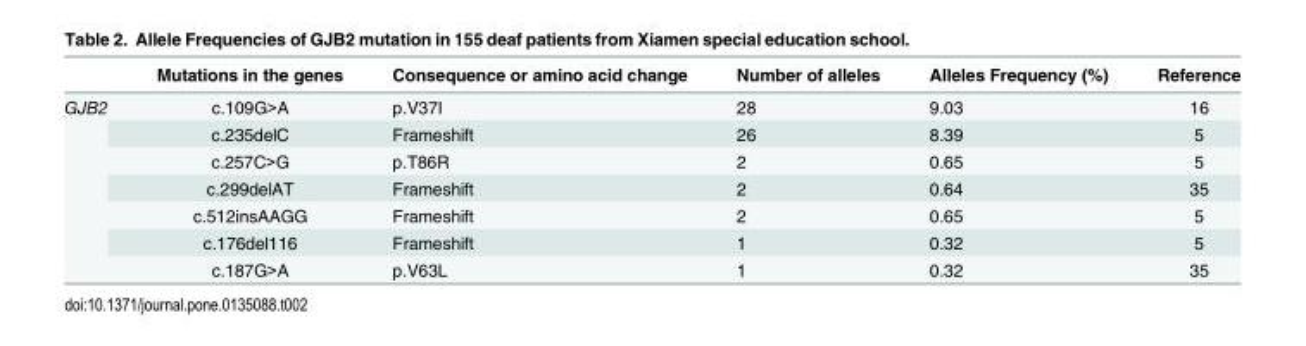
<table><thead><tr><td></td><td>Mutations in the genes</td><td>Consequence or amino acid change</td><td>Number of alleles</td><td>Alleles Frequency (%)</td><td>Reference</td></tr></thead><tbody><tr><td rowspan="7">GJB2</td><td>c.109G&gt;A</td><td>p.V37I</td><td>28</td><td>9.03</td><td>16</td></tr><tr><td>c.235delC</td><td>Frameshift</td><td>26</td><td>8.39</td><td>5</td></tr><tr><td>c.257C&gt;G</td><td>p.T86R</td><td>2</td><td>0.65</td><td>5</td></tr><tr><td>c.299delAT</td><td>Frameshift</td><td>2</td><td>0.64</td><td>35</td></tr><tr><td>c.512insAAGG</td><td>Frameshift</td><td>2</td><td>0.65</td><td>5</td></tr><tr><td>c.176del116</td><td>Frameshift</td><td>1</td><td>0.32</td><td>5</td></tr><tr><td>c.187G&gt;A</td><td>p.V63L</td><td>1</td><td>0.32</td><td>35</td></tr></tbody></table>